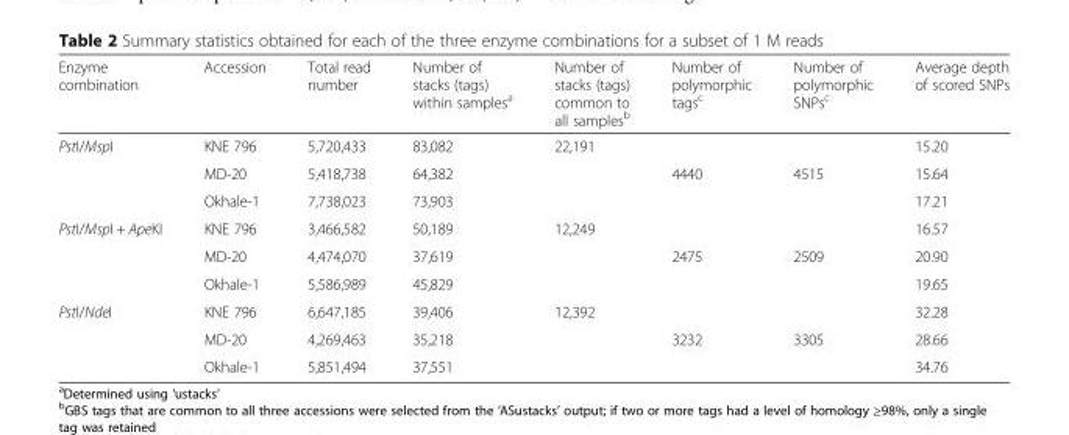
<table><thead><tr><td>Enzyme combination</td><td>Accession</td><td>Total read number</td><td>Number of stacks (tags) within samples<sup>a</sup></td><td>Number of stacks (tags) common to all samples<sup>b</sup></td><td>Number of polymorphic tags<sup>c</sup></td><td>Number of polymorphic SNPs<sup>c</sup></td><td>Average depth of scored SNPs</td></tr></thead><tbody><tr><td rowspan="3">PstI/MspI</td><td>KNE 796</td><td>5,720,433</td><td>83,082</td><td rowspan="3">22,191</td><td></td><td></td><td>15.20</td></tr><tr><td>MD-20</td><td>5,418,738</td><td>64,382</td><td>4440</td><td>4515</td><td>15.64</td></tr><tr><td>Okhale-1</td><td>7,738,023</td><td>73,903</td><td></td><td></td><td>17.21</td></tr><tr><td rowspan="3">PstI/MspI + ApeKI</td><td>KNE 796</td><td>3,466,582</td><td>50,189</td><td rowspan="3">12,249</td><td></td><td></td><td>16.57</td></tr><tr><td>MD-20</td><td>4,474,070</td><td>37,619</td><td>2475</td><td>2509</td><td>20.90</td></tr><tr><td>Okhale-1</td><td>5,586,989</td><td>45,829</td><td></td><td></td><td>19.65</td></tr><tr><td rowspan="3">PstI/NdeI</td><td>KNE 796</td><td>6,647,185</td><td>39,406</td><td rowspan="3">12,392</td><td></td><td></td><td>32.28</td></tr><tr><td>MD-20</td><td>4,269,463</td><td>35,218</td><td>3232</td><td>3305</td><td>28.66</td></tr><tr><td>Okhale-1</td><td>5,851,494</td><td>37,551</td><td></td><td></td><td>34.76</td></tr></tbody></table>